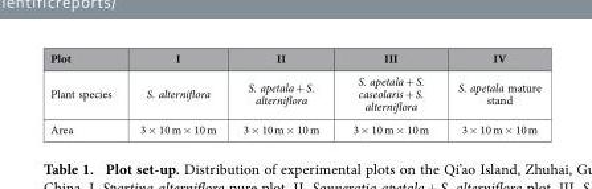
<table><thead><tr><td>Plot</td><td>I</td><td>II</td><td>III</td><td>IV</td></tr></thead><tbody><tr><td>Plant species</td><td>S. alterniflora</td><td>S. apetala + S. alterniflora</td><td>S. apetala + S. caseolaris + S. alterniflora</td><td>S. apetala mature stand</td></tr><tr><td>Area</td><td>3 × 10 m × 10 m</td><td>3 × 10 m × 10 m</td><td>3 × 10 m × 10 m</td><td>3 × 10 m × 10 m</td></tr></tbody></table>